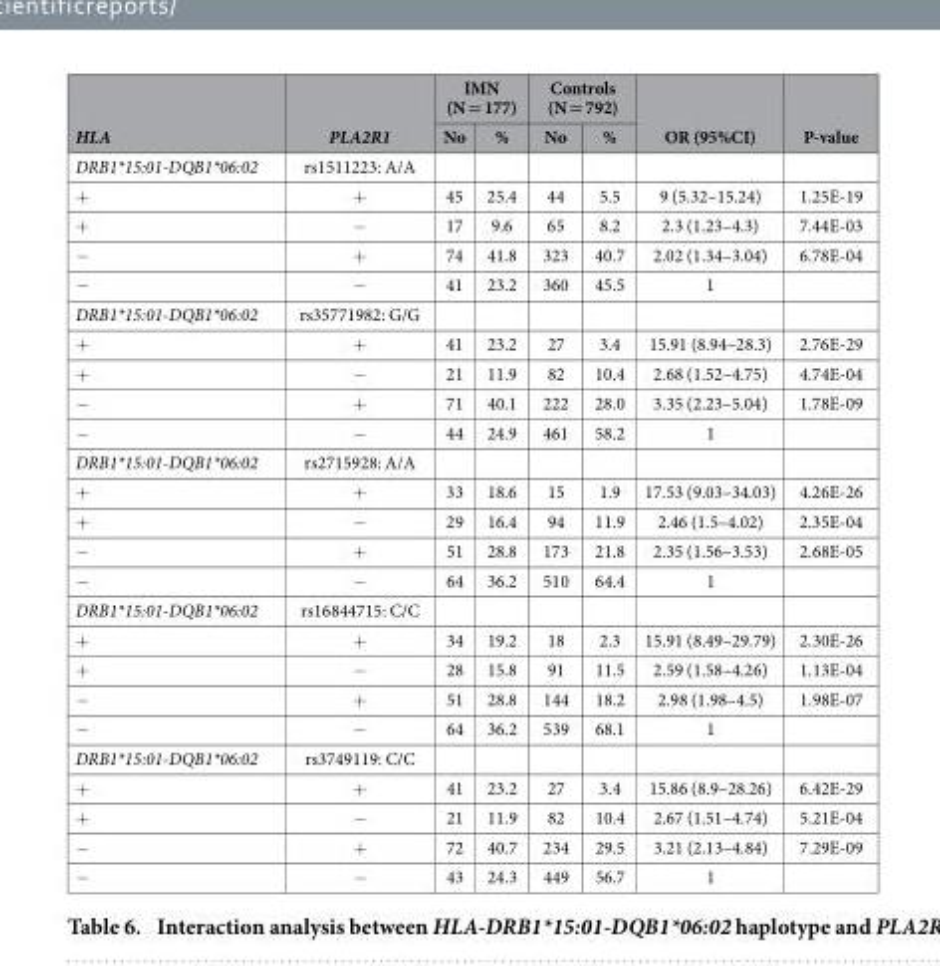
<table><thead><tr><td rowspan="2">HLA</td><td rowspan="2">PLA2R1</td><td colspan="2">IMN (N = 177)</td><td colspan="2">Controls (N = 792)</td><td rowspan="2">OR (95%CI)</td><td rowspan="2">P-value</td></tr><tr><td>No</td><td>%</td><td>No</td><td>%</td></tr></thead><tbody><tr><td>DRB1*15:01-DQB1*06:02</td><td>rs1511223: A/A</td><td></td><td></td><td></td><td></td><td></td><td></td></tr><tr><td>+</td><td>+</td><td>45</td><td>25.4</td><td>44</td><td>5.5</td><td>9 (5.32–15.24)</td><td>1.25E-19</td></tr><tr><td>+</td><td>−</td><td>17</td><td>9.6</td><td>65</td><td>8.2</td><td>2.3 (1.23–4.3)</td><td>7.44E-03</td></tr><tr><td>−</td><td>+</td><td>74</td><td>41.8</td><td>323</td><td>40.7</td><td>2.02 (1.34–3.04)</td><td>6.78E-04</td></tr><tr><td>−</td><td>−</td><td>41</td><td>23.2</td><td>360</td><td>45.5</td><td>1</td><td></td></tr><tr><td>DRB1*15:01-DQB1*06:02</td><td>rs35771982: G/G</td><td></td><td></td><td></td><td></td><td></td><td></td></tr><tr><td>+</td><td>+</td><td>41</td><td>23.2</td><td>27</td><td>3.4</td><td>15.91 (8.94–28.3)</td><td>2.76E-29</td></tr><tr><td>+</td><td>−</td><td>21</td><td>11.9</td><td>82</td><td>10.4</td><td>2.68 (1.52–4.75)</td><td>4.74E-04</td></tr><tr><td>−</td><td>+</td><td>71</td><td>40.1</td><td>222</td><td>28.0</td><td>3.35 (2.23–5.04)</td><td>1.78E-09</td></tr><tr><td>−</td><td>−</td><td>44</td><td>24.9</td><td>461</td><td>58.2</td><td>1</td><td></td></tr><tr><td>DRB1*15:01-DQB1*06:02</td><td>rs2715928: A/A</td><td></td><td></td><td></td><td></td><td></td><td></td></tr><tr><td>+</td><td>+</td><td>33</td><td>18.6</td><td>15</td><td>1.9</td><td>17.53 (9.03–34.03)</td><td>4.26E-26</td></tr><tr><td>+</td><td>−</td><td>29</td><td>16.4</td><td>94</td><td>11.9</td><td>2.46 (1.5–4.02)</td><td>2.35E-04</td></tr><tr><td>−</td><td>+</td><td>51</td><td>28.8</td><td>173</td><td>21.8</td><td>2.35 (1.56–3.53)</td><td>2.68E-05</td></tr><tr><td>−</td><td>−</td><td>64</td><td>36.2</td><td>510</td><td>64.4</td><td>1</td><td></td></tr><tr><td>DRB1*15:01-DQB1*06:02</td><td>rs16844715: C/C</td><td></td><td></td><td></td><td></td><td></td><td></td></tr><tr><td>+</td><td>+</td><td>34</td><td>19.2</td><td>18</td><td>2.3</td><td>15.91 (8.49–29.79)</td><td>2.30E-26</td></tr><tr><td>+</td><td>−</td><td>28</td><td>15.8</td><td>91</td><td>11.5</td><td>2.59 (1.58–4.26)</td><td>1.13E-04</td></tr><tr><td>−</td><td>+</td><td>51</td><td>28.8</td><td>144</td><td>18.2</td><td>2.98 (1.98–4.5)</td><td>1.98E-07</td></tr><tr><td>−</td><td>−</td><td>64</td><td>36.2</td><td>539</td><td>68.1</td><td>1</td><td></td></tr><tr><td>DRB1*15:01-DQB1*06:02</td><td>rs3749119: C/C</td><td></td><td></td><td></td><td></td><td></td><td></td></tr><tr><td>+</td><td>+</td><td>41</td><td>23.2</td><td>27</td><td>3.4</td><td>15.86 (8.9–28.26)</td><td>6.42E-29</td></tr><tr><td>+</td><td>−</td><td>21</td><td>11.9</td><td>82</td><td>10.4</td><td>2.67 (1.51–4.74)</td><td>5.21E-04</td></tr><tr><td>−</td><td>+</td><td>72</td><td>40.7</td><td>234</td><td>29.5</td><td>3.21 (2.13–4.84)</td><td>7.29E-09</td></tr><tr><td>−</td><td>−</td><td>43</td><td>24.3</td><td>449</td><td>56.7</td><td>1</td><td></td></tr></tbody></table>